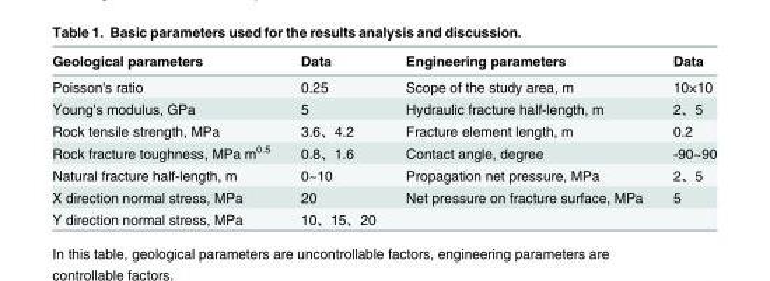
<table><thead><tr><td>Geological parameters</td><td>Data</td><td>Engineering parameters</td><td>Data</td></tr></thead><tbody><tr><td>Poisson&#x27;s ratio</td><td>0.25</td><td>Scope of the study area, m</td><td>10×10</td></tr><tr><td>Young&#x27;s modulus, GPa</td><td>5</td><td>Hydraulic fracture half-length, m</td><td>2、5</td></tr><tr><td>Rock tensile strength, MPa</td><td>3.6、4.2</td><td>Fracture element length, m</td><td>0.2</td></tr><tr><td>Rock fracture toughness, MPa m<sup>0.5</sup></td><td>0.8、1.6</td><td>Contact angle, degree</td><td>-90~90</td></tr><tr><td>Natural fracture half-length, m</td><td>0~10</td><td>Propagation net pressure, MPa</td><td>2、5</td></tr><tr><td>X direction normal stress, MPa</td><td>20</td><td>Net pressure on fracture surface, MPa</td><td>5</td></tr><tr><td>Y direction normal stress, MPa</td><td>10、15、20</td><td></td><td></td></tr></tbody></table>